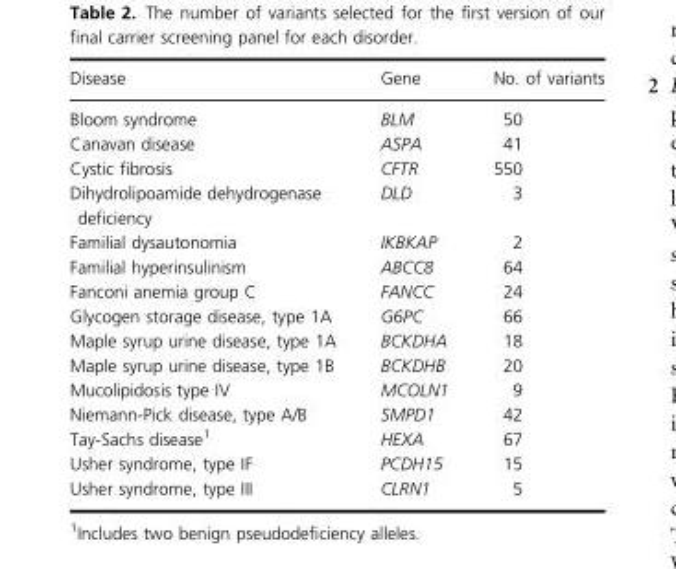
<table><thead><tr><td>Disease</td><td>Gene</td><td>No. of variants</td></tr></thead><tbody><tr><td>Bloom syndrome</td><td>BLM</td><td>50</td></tr><tr><td>Canavan disease</td><td>ASPA</td><td>41</td></tr><tr><td>Cystic fibrosis</td><td>CFTR</td><td>550</td></tr><tr><td>Dihydrolipoamide dehydrogenase deficiency</td><td>DLD</td><td>3</td></tr><tr><td>Familial dysautonomia</td><td>IKBKAP</td><td>2</td></tr><tr><td>Familial hyperinsulinism</td><td>ABCC8</td><td>64</td></tr><tr><td>Fanconi anemia group C</td><td>FANCC</td><td>24</td></tr><tr><td>Glycogen storage disease, type 1A</td><td>G6PC</td><td>66</td></tr><tr><td>Maple syrup urine disease, type 1A</td><td>BCKDHA</td><td>18</td></tr><tr><td>Maple syrup urine disease, type 1B</td><td>BCKDHB</td><td>20</td></tr><tr><td>Mucolipidosis type IV</td><td>MCOLN1</td><td>9</td></tr><tr><td>Niemann-Pick disease, type A/B</td><td>SMPD1</td><td>42</td></tr><tr><td>Tay-Sachs disease<sup>1</sup></td><td>HEXA</td><td>67</td></tr><tr><td>Usher syndrome, type IF</td><td>PCDH15</td><td>15</td></tr><tr><td>Usher syndrome, type III</td><td>CLRN1</td><td>5</td></tr></tbody></table>